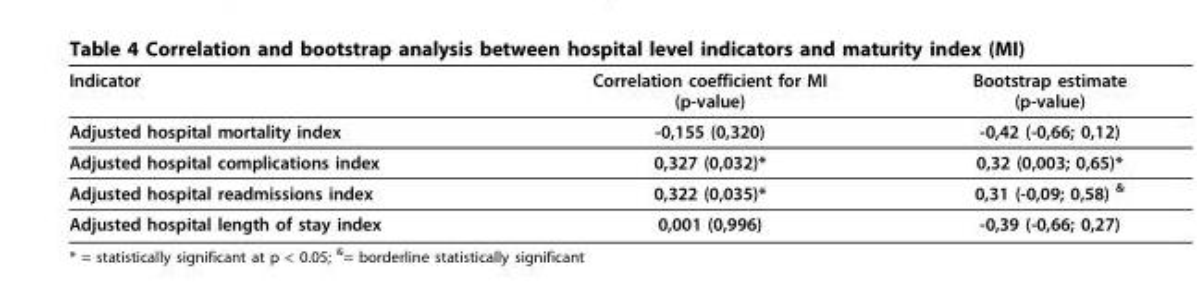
<table><thead><tr><td>Indicator</td><td>Correlation coefficient for MI (p-value)</td><td>Bootstrap estimate (p-value)</td></tr></thead><tbody><tr><td>Adjusted hospital mortality index</td><td>-0,155 (0,320)</td><td>-0,42 (-0,66; 0,12)</td></tr><tr><td>Adjusted hospital complications index</td><td>0,327 (0,032)*</td><td>0,32 (0,003; 0,65)*</td></tr><tr><td>Adjusted hospital readmissions index</td><td>0,322 (0,035)*</td><td>0,31 (-0,09; 0,58) <sup>&amp;</sup></td></tr><tr><td>Adjusted hospital length of stay index</td><td>0,001 (0,996)</td><td>-0,39 (-0,66; 0,27)</td></tr></tbody></table>